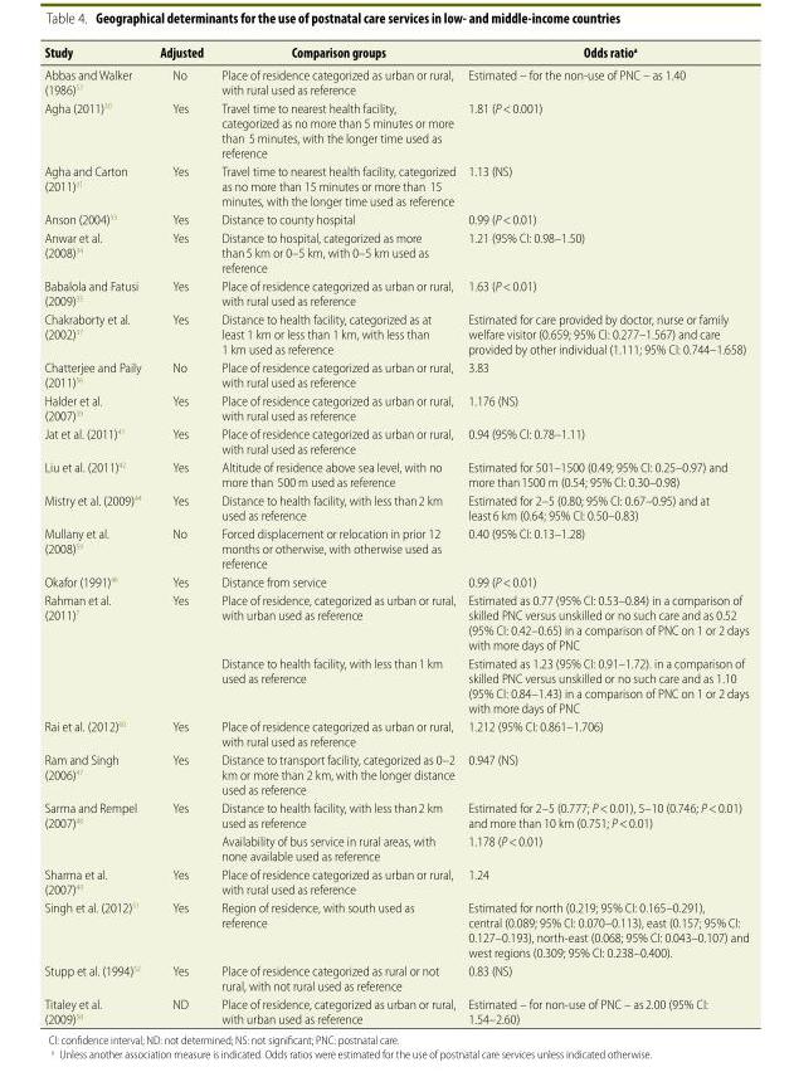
<table><thead><tr><td>Study</td><td>Adjusted</td><td>Comparison groups</td><td>Odds ratio<sup>a</sup></td></tr></thead><tbody><tr><td>Abbas and Walker (1986)<sup>57</sup></td><td>No</td><td>Place of residence categorized as urban or rural, with rural used as reference</td><td>Estimated – for the non-use of PNC – as 1.40</td></tr><tr><td>Agha (2011)<sup>30</sup></td><td>Yes</td><td>Travel time to nearest health facility, categorized as no more than 5 minutes or more than 5 minutes, with the longer time used as reference</td><td>1.81 (P &lt; 0.001)</td></tr><tr><td>Agha and Carton (2011)<sup>31</sup></td><td>Yes</td><td>Travel time to nearest health facility, categorized as no more than 15 minutes or more than 15 minutes, with the longer time used as reference</td><td>1.13 (NS)</td></tr><tr><td>Anson (2004)<sup>33</sup></td><td>Yes</td><td>Distance to county hospital</td><td>0.99 (P &lt; 0.01)</td></tr><tr><td>Anwar et al. (2008)<sup>34</sup></td><td>Yes</td><td>Distance to hospital, categorized as more than 5 km or 0–5 km, with 0–5 km used as reference</td><td>1.21 (95% CI: 0.98–1.50)</td></tr><tr><td>Babalola and Fatusi (2009)<sup>35</sup></td><td>Yes</td><td>Place of residence categorized as urban or rural, with rural used as reference</td><td>1.63 (P &lt; 0.01)</td></tr><tr><td>Chakraborty et al. (2002)<sup>37</sup></td><td>Yes</td><td>Distance to health facility, categorized as at least 1 km or less than 1 km, with less than 1 km used as reference</td><td>Estimated for care provided by doctor, nurse or family welfare visitor (0.659; 95% CI: 0.277–1.567) and care provided by other individual (1.111; 95% CI: 0.744–1.658)</td></tr><tr><td>Chatterjee and Paily (2011)<sup>56</sup></td><td>No</td><td>Place of residence categorized as urban or rural, with rural used as reference</td><td>3.83</td></tr><tr><td>Halder et al. (2007)<sup>39</sup></td><td>Yes</td><td>Place of residence categorized as urban or rural, with rural used as reference</td><td>1.176 (NS)</td></tr><tr><td>Jat et al. (2011)<sup>41</sup></td><td>Yes</td><td>Place of residence categorized as urban or rural, with rural used as reference</td><td>0.94 (95% CI: 0.78–1.11)</td></tr><tr><td>Liu et al. (2011)<sup>42</sup></td><td>Yes</td><td>Altitude of residence above sea level, with no more than 500 m used as reference</td><td>Estimated for 501–1500 (0.49; 95% CI: 0.25–0.97) and more than 1500 m (0.54; 95% CI: 0.30–0.98)</td></tr><tr><td>Mistry et al. (2009)<sup>44</sup></td><td>Yes</td><td>Distance to health facility, with less than 2 km used as reference</td><td>Estimated for 2–5 (0.80; 95% CI: 0.67–0.95) and at least 6 km (0.64; 95% CI: 0.50–0.83)</td></tr><tr><td>Mullany et al. (2008)<sup>59</sup></td><td>No</td><td>Forced displacement or relocation in prior 12 months or otherwise, with otherwise used as reference</td><td>0.40 (95% CI: 0.13–1.28)</td></tr><tr><td>Okafor (1991)<sup>46</sup></td><td>Yes</td><td>Distance from service</td><td>0.99 (P &lt; 0.01)</td></tr><tr><td rowspan="2">Rahman et al. (2011)<sup>7</sup></td><td rowspan="2">Yes</td><td>Place of residence, categorized as urban or rural, with urban used as reference</td><td>Estimated as 0.77 (95% CI: 0.53–0.84) in a comparison of skilled PNC versus unskilled or no such care and as 0.52 (95% CI: 0.42–0.65) in a comparison of PNC on 1 or 2 days with more days of PNC</td></tr><tr><td>Distance to health facility, with less than 1 km used as reference</td><td>Estimated as 1.23 (95% CI: 0.91–1.72). in a comparison of skilled PNC versus unskilled or no such care and as 1.10 (95% CI: 0.84–1.43) in a comparison of PNC on 1 or 2 days with more days of PNC</td></tr><tr><td>Rai et al. (2012)<sup>60</sup></td><td>Yes</td><td>Place of residence categorized as urban or rural, with rural used as reference</td><td>1.212 (95% CI: 0.861–1.706)</td></tr><tr><td>Ram and Singh (2006)<sup>47</sup></td><td>Yes</td><td>Distance to transport facility, categorized as 0–2 km or more than 2 km, with the longer distance used as reference</td><td>0.947 (NS)</td></tr><tr><td rowspan="2">Sarma and Rempel (2007)<sup>48</sup></td><td rowspan="2">Yes</td><td>Distance to health facility, with less than 2 km used as reference</td><td>Estimated for 2–5 (0.777; P &lt; 0.01), 5–10 (0.746; P &lt; 0.01) and more than 10 km (0.751; P &lt; 0.01)</td></tr><tr><td>Availability of bus service in rural areas, with none available used as reference</td><td>1.178 (P &lt; 0.01)</td></tr><tr><td>Sharma et al. (2007)<sup>49</sup></td><td>Yes</td><td>Place of residence categorized as urban or rural, with rural used as reference</td><td>1.24</td></tr><tr><td>Singh et al. (2012)<sup>51</sup></td><td>Yes</td><td>Region of residence, with south used as reference</td><td>Estimated for north (0.219; 95% CI: 0.165–0.291), central (0.089; 95% CI: 0.070–0.113), east (0.157; 95% CI: 0.127–0.193), north-east (0.068; 95% CI: 0.043–0.107) and west regions (0.309; 95% CI: 0.238–0.400).</td></tr><tr><td>Stupp et al. (1994)<sup>52</sup></td><td>Yes</td><td>Place of residence categorized as rural or not rural, with not rural used as reference</td><td>0.83 (NS)</td></tr><tr><td>Titaley et al. (2009)<sup>58</sup></td><td>ND</td><td>Place of residence, categorized as urban or rural, with urban used as reference</td><td>Estimated – for non-use of PNC – as 2.00 (95% CI: 1.54–2.60)</td></tr></tbody></table>